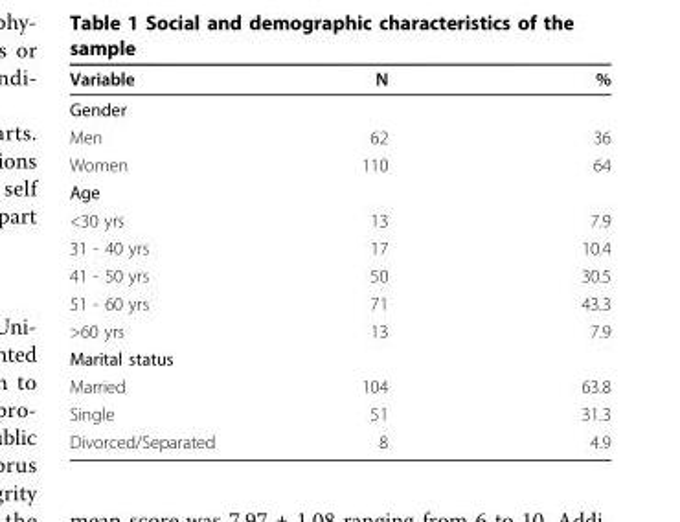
<table><thead><tr><td>Variable</td><td>N</td><td>%</td></tr></thead><tbody><tr><td colspan="3">Gender</td></tr><tr><td>Men</td><td>62</td><td>36</td></tr><tr><td>Women</td><td>110</td><td>64</td></tr><tr><td colspan="3">Age</td></tr><tr><td>&lt;30 yrs</td><td>13</td><td>7.9</td></tr><tr><td>31 - 40 yrs</td><td>17</td><td>10.4</td></tr><tr><td>41 - 50 yrs</td><td>50</td><td>30.5</td></tr><tr><td>51 - 60 yrs</td><td>71</td><td>43.3</td></tr><tr><td>&gt;60 yrs</td><td>13</td><td>7.9</td></tr><tr><td colspan="3">Marital status</td></tr><tr><td>Married</td><td>104</td><td>63.8</td></tr><tr><td>Single</td><td>51</td><td>31.3</td></tr><tr><td>Divorced/Separated</td><td>8</td><td>4.9</td></tr></tbody></table>